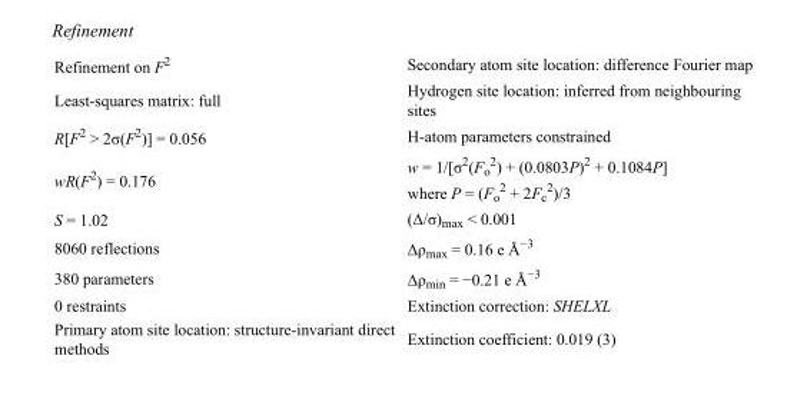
<table><tbody><tr><td>Refinement on F<sup>2</sup></td><td>Secondary atom site location: difference Fourier map</td></tr><tr><td>Least-squares matrix: full</td><td>Hydrogen site location: inferred from neighbouring sites</td></tr><tr><td>R[F<sup>2</sup> &gt; 2σ(F<sup>2</sup>)] = 0.056</td><td>H-atom parameters constrained</td></tr><tr><td>wR(F<sup>2</sup>) = 0.176</td><td>w = 1/[σ<sup>2</sup>(F<sub>o</sub> <sup>2</sup>) + (0.0803P)<sup>2</sup> + 0.1084P] where P = (F<sub>o</sub> <sup>2</sup> + 2F<sub>c</sub> <sup>2</sup>)/3</td></tr><tr><td>S = 1.02</td><td>(Δ/σ)<sub>max</sub> &lt; 0.001</td></tr><tr><td>8060 reflections</td><td>Δρ<sub>max</sub> = 0.16 e Å<sup>−3</sup></td></tr><tr><td>380 parameters</td><td>Δρ<sub>min</sub> = −0.21 e Å<sup>−3</sup></td></tr><tr><td>0 restraints</td><td>Extinction correction: SHELXL</td></tr><tr><td>Primary atom site location: structure-invariant direct methods</td><td>Extinction coefficient: 0.019 (3)</td></tr></tbody></table>